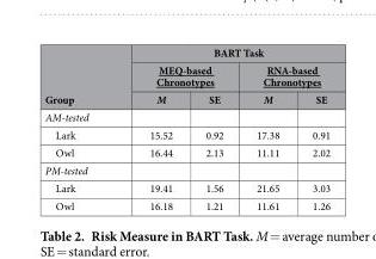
<table><thead><tr><td rowspan="3">Group</td><td colspan="4">BART Task</td></tr><tr><td colspan="2">MEQ-based Chronotypes</td><td colspan="2">RNA-based Chronotypes</td></tr><tr><td>M</td><td>SE</td><td>M</td><td>SE</td></tr></thead><tbody><tr><td colspan="5">AM-tested</td></tr><tr><td>Lark</td><td>15.52</td><td>0.92</td><td>17.38</td><td>0.91</td></tr><tr><td>Owl</td><td>16.44</td><td>2.13</td><td>11.11</td><td>2.02</td></tr><tr><td colspan="5">PM-tested</td></tr><tr><td>Lark</td><td>19.41</td><td>1.56</td><td>21.65</td><td>3.03</td></tr><tr><td>Owl</td><td>16.18</td><td>1.21</td><td>11.61</td><td>1.26</td></tr></tbody></table>